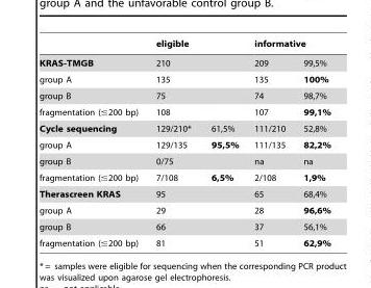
<table><thead><tr><td rowspan="2">KRAS-TMGB</td><td colspan="2">eligible</td><td colspan="2">informative</td></tr><tr><td>210</td><td></td><td>209</td><td>99,5%</td></tr></thead><tbody><tr><td>group A</td><td>135</td><td></td><td>135</td><td>100%</td></tr><tr><td>group B</td><td>75</td><td></td><td>74</td><td>98,7%</td></tr><tr><td>fragmentation (≤200 bp)</td><td>108</td><td></td><td>107</td><td>99,1%</td></tr><tr><td>Cycle sequencing</td><td>129/210*</td><td>61,5%</td><td>111/210</td><td>52,8%</td></tr><tr><td>group A</td><td>129/135</td><td>95,5%</td><td>111/135</td><td>82,2%</td></tr><tr><td>group B</td><td>0/75</td><td></td><td>na</td><td>na</td></tr><tr><td>fragmentation (≤200 bp)</td><td>7/108</td><td>6,5%</td><td>2/108</td><td>1,9%</td></tr><tr><td>Therascreen KRAS</td><td>95</td><td></td><td>65</td><td>68,4%</td></tr><tr><td>group A</td><td>29</td><td></td><td>28</td><td>96,6%</td></tr><tr><td>group B</td><td>66</td><td></td><td>37</td><td>56,1%</td></tr><tr><td>fragmentation (≤200 bp)</td><td>81</td><td></td><td>51</td><td>62,9%</td></tr></tbody></table>